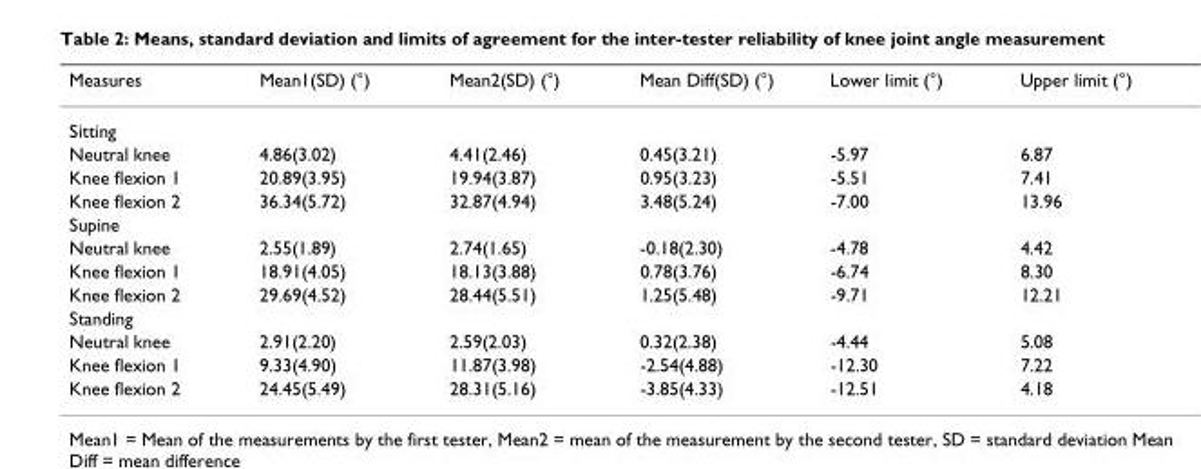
<table><thead><tr><td>Measures</td><td>Mean1(SD) (°)</td><td>Mean2(SD) (°)</td><td>Mean Diff(SD) (°)</td><td>Lower limit (°)</td><td>Upper limit (°)</td></tr></thead><tbody><tr><td colspan="6">Sitting</td></tr><tr><td>Neutral knee</td><td>4.86(3.02)</td><td>4.41(2.46)</td><td>0.45(3.21)</td><td>-5.97</td><td>6.87</td></tr><tr><td>Knee flexion 1</td><td>20.89(3.95)</td><td>19.94(3.87)</td><td>0.95(3.23)</td><td>-5.51</td><td>7.41</td></tr><tr><td>Knee flexion 2</td><td>36.34(5.72)</td><td>32.87(4.94)</td><td>3.48(5.24)</td><td>-7.00</td><td>13.96</td></tr><tr><td colspan="6">Supine</td></tr><tr><td>Neutral knee</td><td>2.55(1.89)</td><td>2.74(1.65)</td><td>-0.18(2.30)</td><td>-4.78</td><td>4.42</td></tr><tr><td>Knee flexion 1</td><td>18.91(4.05)</td><td>18.13(3.88)</td><td>0.78(3.76)</td><td>-6.74</td><td>8.30</td></tr><tr><td>Knee flexion 2</td><td>29.69(4.52)</td><td>28.44(5.51)</td><td>1.25(5.48)</td><td>-9.71</td><td>12.21</td></tr><tr><td colspan="6">Standing</td></tr><tr><td>Neutral knee</td><td>2.91(2.20)</td><td>2.59(2.03)</td><td>0.32(2.38)</td><td>-4.44</td><td>5.08</td></tr><tr><td>Knee flexion 1</td><td>9.33(4.90)</td><td>11.87(3.98)</td><td>-2.54(4.88)</td><td>-12.30</td><td>7.22</td></tr><tr><td>Knee flexion 2</td><td>24.45(5.49)</td><td>28.31(5.16)</td><td>-3.85(4.33)</td><td>-12.51</td><td>4.18</td></tr></tbody></table>